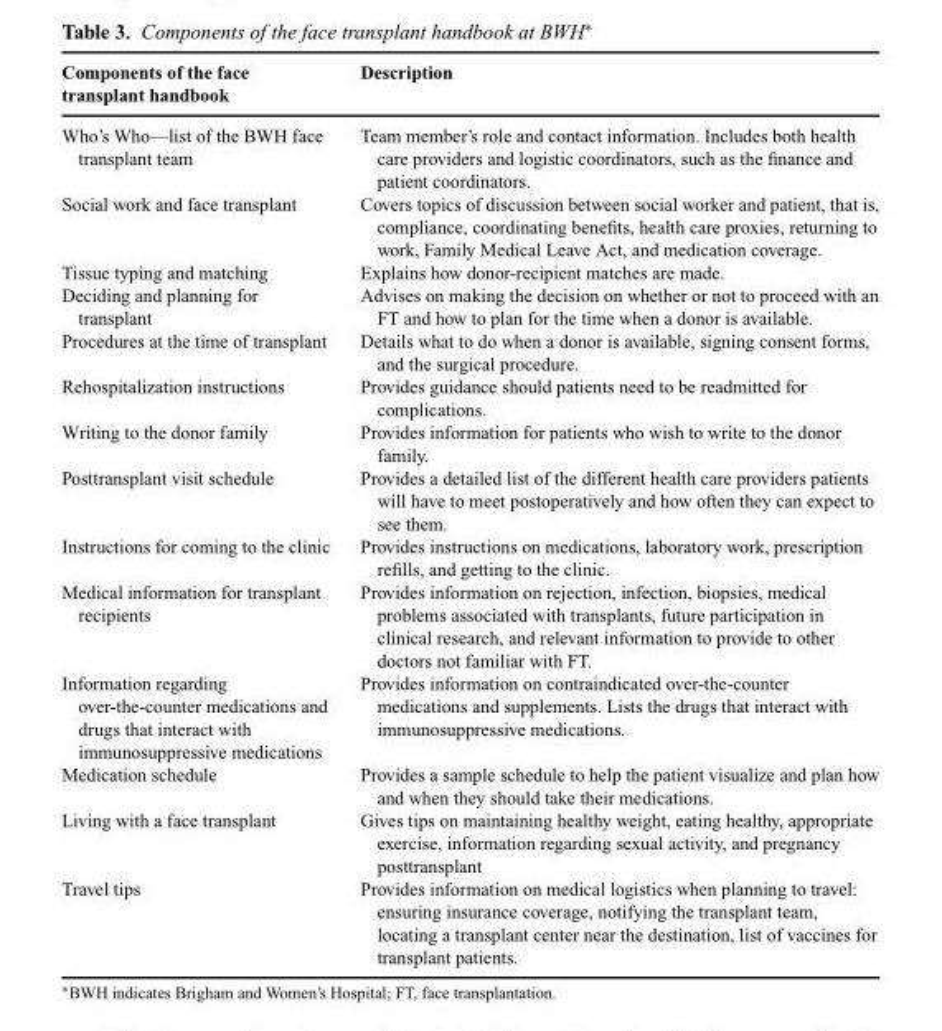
<table><thead><tr><td>Components of the face transplant handbook</td><td>Description</td></tr></thead><tbody><tr><td>Who’s Who—list of the BWH face transplant team</td><td>Team member’s role and contact information. Includes both health care providers and logistic coordinators, such as the finance and patient coordinators.</td></tr><tr><td>Social work and face transplant</td><td>Covers topics of discussion between social worker and patient, that is, compliance, coordinating benefits, health care proxies, returning to work, Family Medical Leave Act, and medication coverage.</td></tr><tr><td>Tissue typing and matching</td><td>Explains how donor-recipient matches are made.</td></tr><tr><td>Deciding and planning for transplant</td><td>Advises on making the decision on whether or not to proceed with an FT and how to plan for the time when a donor is available.</td></tr><tr><td>Procedures at the time of transplant</td><td>Details what to do when a donor is available, signing consent forms, and the surgical procedure.</td></tr><tr><td>Rehospitalization instructions</td><td>Provides guidance should patients need to be readmitted for complications.</td></tr><tr><td>Writing to the donor family</td><td>Provides information for patients who wish to write to the donor family.</td></tr><tr><td>Posttransplant visit schedule</td><td>Provides a detailed list of the different health care providers patients will have to meet postoperatively and how often they can expect to see them.</td></tr><tr><td>Instructions for coming to the clinic</td><td>Provides instructions on medications, laboratory work, prescription refills, and getting to the clinic.</td></tr><tr><td>Medical information for transplant recipients</td><td>Provides information on rejection, infection, biopsies, medical problems associated with transplants, future participation in clinical research, and relevant information to provide to other doctors not familiar with FT.</td></tr><tr><td>Information regarding over-the-counter medications and drugs that interact with immunosuppressive medications</td><td>Provides information on contraindicated over-the-counter medications and supplements. Lists the drugs that interact with immunosuppressive medications.</td></tr><tr><td>Medication schedule</td><td>Provides a sample schedule to help the patient visualize and plan how and when they should take their medications.</td></tr><tr><td>Living with a face transplant</td><td>Gives tips on maintaining healthy weight, eating healthy, appropriate exercise, information regarding sexual activity, and pregnancy posttransplant</td></tr><tr><td>Travel tips</td><td>Provides information on medical logistics when planning to travel: ensuring insurance coverage, notifying the transplant team, locating a transplant center near the destination, list of vaccines for transplant patients.</td></tr></tbody></table>